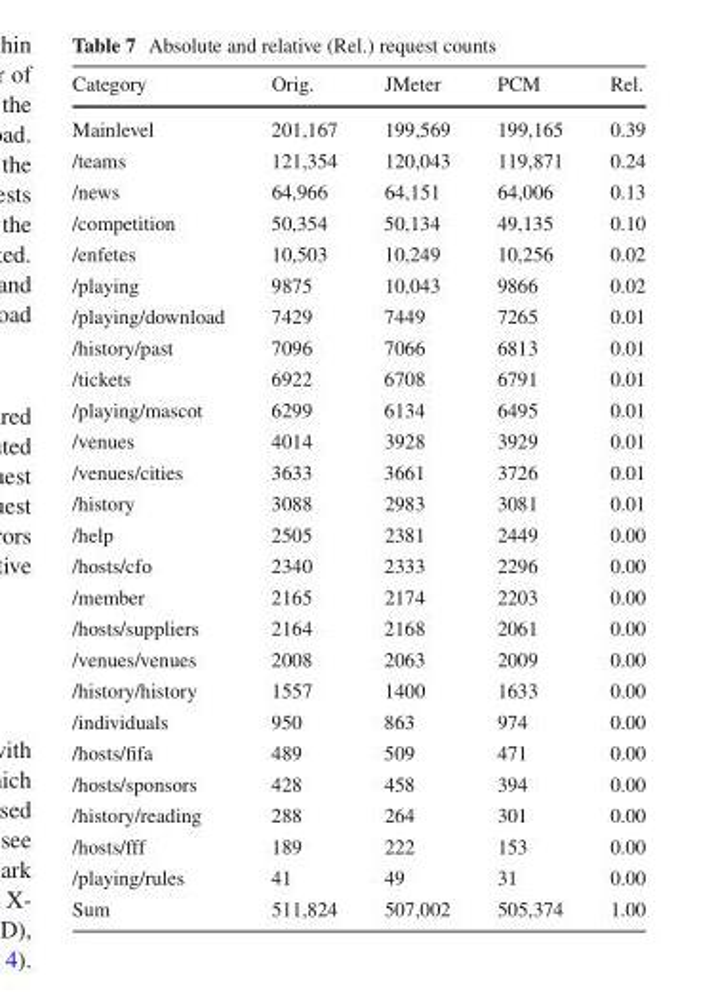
<table><thead><tr><td>Category</td><td>Orig.</td><td>JMeter</td><td>PCM</td><td>Rel.</td></tr></thead><tbody><tr><td>Mainlevel</td><td>201,167</td><td>199,569</td><td>199,165</td><td>0.39</td></tr><tr><td>/teams</td><td>121,354</td><td>120,043</td><td>119,871</td><td>0.24</td></tr><tr><td>/news</td><td>64,966</td><td>64,151</td><td>64,006</td><td>0.13</td></tr><tr><td>/competition</td><td>50,354</td><td>50,134</td><td>49,135</td><td>0.10</td></tr><tr><td>/enfetes</td><td>10,503</td><td>10,249</td><td>10,256</td><td>0.02</td></tr><tr><td>/playing</td><td>9875</td><td>10,043</td><td>9866</td><td>0.02</td></tr><tr><td>/playing/download</td><td>7429</td><td>7449</td><td>7265</td><td>0.01</td></tr><tr><td>/history/past</td><td>7096</td><td>7066</td><td>6813</td><td>0.01</td></tr><tr><td>/tickets</td><td>6922</td><td>6708</td><td>6791</td><td>0.01</td></tr><tr><td>/playing/mascot</td><td>6299</td><td>6134</td><td>6495</td><td>0.01</td></tr><tr><td>/venues</td><td>4014</td><td>3928</td><td>3929</td><td>0.01</td></tr><tr><td>/venues/cities</td><td>3633</td><td>3661</td><td>3726</td><td>0.01</td></tr><tr><td>/history</td><td>3088</td><td>2983</td><td>3081</td><td>0.01</td></tr><tr><td>/help</td><td>2505</td><td>2381</td><td>2449</td><td>0.00</td></tr><tr><td>/hosts/cfo</td><td>2340</td><td>2333</td><td>2296</td><td>0.00</td></tr><tr><td>/member</td><td>2165</td><td>2174</td><td>2203</td><td>0.00</td></tr><tr><td>/hosts/suppliers</td><td>2164</td><td>2168</td><td>2061</td><td>0.00</td></tr><tr><td>/venues/venues</td><td>2008</td><td>2063</td><td>2009</td><td>0.00</td></tr><tr><td>/history/history</td><td>1557</td><td>1400</td><td>1633</td><td>0.00</td></tr><tr><td>/individuals</td><td>950</td><td>863</td><td>974</td><td>0.00</td></tr><tr><td>/hosts/fifa</td><td>489</td><td>509</td><td>471</td><td>0.00</td></tr><tr><td>/hosts/sponsors</td><td>428</td><td>458</td><td>394</td><td>0.00</td></tr><tr><td>/history/reading</td><td>288</td><td>264</td><td>301</td><td>0.00</td></tr><tr><td>/hosts/fff</td><td>189</td><td>222</td><td>153</td><td>0.00</td></tr><tr><td>/playing/rules</td><td>41</td><td>49</td><td>31</td><td>0.00</td></tr><tr><td>Sum</td><td>511,824</td><td>507,002</td><td>505,374</td><td>1.00</td></tr></tbody></table>